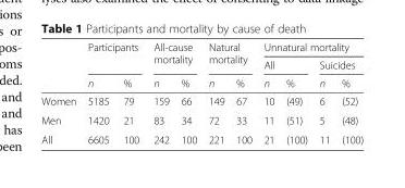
<table><thead><tr><td rowspan="3"></td><td rowspan="2" colspan="2">Participants</td><td rowspan="2" colspan="2">All-cause mortality</td><td rowspan="2" colspan="2">Natural mortality</td><td colspan="4">Unnatural mortality</td></tr><tr><td colspan="2">All</td><td colspan="2">Suicides</td></tr><tr><td>n</td><td>%</td><td>n</td><td>%</td><td>n</td><td>%</td><td>n</td><td>%</td><td>n</td><td>%</td></tr></thead><tbody><tr><td>Women</td><td>5185</td><td>79</td><td>159</td><td>66</td><td>149</td><td>67</td><td>10</td><td>(49)</td><td>6</td><td>(52)</td></tr><tr><td>Men</td><td>1420</td><td>21</td><td>83</td><td>34</td><td>72</td><td>33</td><td>11</td><td>(51)</td><td>5</td><td>(48)</td></tr><tr><td>All</td><td>6605</td><td>100</td><td>242</td><td>100</td><td>221</td><td>100</td><td>21</td><td>(100)</td><td>11</td><td>(100)</td></tr></tbody></table>